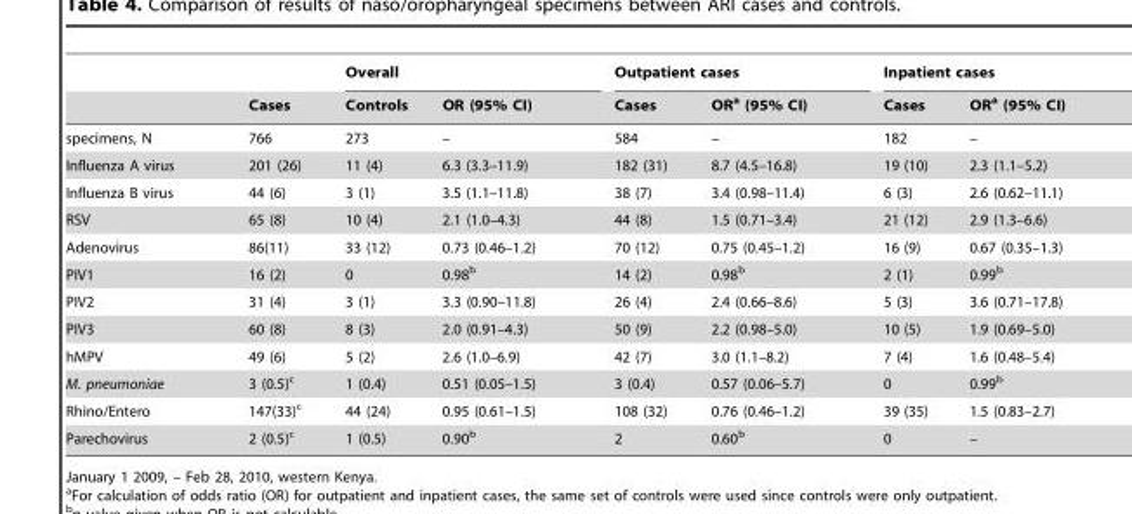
<table><thead><tr><td rowspan="2"></td><td rowspan="2">Cases</td><td colspan="2">Overall</td><td colspan="2">Outpatient cases</td><td colspan="2">Inpatient cases</td></tr><tr><td>Controls</td><td>OR (95% CI)</td><td>Cases</td><td>OR<sup>a</sup> (95% CI)</td><td>Cases</td><td>OR<sup>a</sup> (95% CI)</td></tr></thead><tbody><tr><td>specimens, N</td><td>766</td><td>273</td><td>–</td><td>584</td><td>–</td><td>182</td><td>–</td></tr><tr><td>Influenza A virus</td><td>201 (26)</td><td>11 (4)</td><td>6.3 (3.3–11.9)</td><td>182 (31)</td><td>8.7 (4.5–16.8)</td><td>19 (10)</td><td>2.3 (1.1–5.2)</td></tr><tr><td>Influenza B virus</td><td>44 (6)</td><td>3 (1)</td><td>3.5 (1.1–11.8)</td><td>38 (7)</td><td>3.4 (0.98–11.4)</td><td>6 (3)</td><td>2.6 (0.62–11.1)</td></tr><tr><td>RSV</td><td>65 (8)</td><td>10 (4)</td><td>2.1 (1.0–4.3)</td><td>44 (8)</td><td>1.5 (0.71–3.4)</td><td>21 (12)</td><td>2.9 (1.3–6.6)</td></tr><tr><td>Adenovirus</td><td>86(11)</td><td>33 (12)</td><td>0.73 (0.46–1.2)</td><td>70 (12)</td><td>0.75 (0.45–1.2)</td><td>16 (9)</td><td>0.67 (0.35–1.3)</td></tr><tr><td>PIV1</td><td>16 (2)</td><td>0</td><td>0.98<sup>b</sup></td><td>14 (2)</td><td>0.98<sup>b</sup></td><td>2 (1)</td><td>0.99<sup>b</sup></td></tr><tr><td>PIV2</td><td>31 (4)</td><td>3 (1)</td><td>3.3 (0.90–11.8)</td><td>26 (4)</td><td>2.4 (0.66–8.6)</td><td>5 (3)</td><td>3.6 (0.71–17.8)</td></tr><tr><td>PIV3</td><td>60 (8)</td><td>8 (3)</td><td>2.0 (0.91–4.3)</td><td>50 (9)</td><td>2.2 (0.98–5.0)</td><td>10 (5)</td><td>1.9 (0.69–5.0)</td></tr><tr><td>hMPV</td><td>49 (6)</td><td>5 (2)</td><td>2.6 (1.0–6.9)</td><td>42 (7)</td><td>3.0 (1.1–8.2)</td><td>7 (4)</td><td>1.6 (0.48–5.4)</td></tr><tr><td>M. pneumoniae</td><td>3 (0.5)<sup>c</sup></td><td>1 (0.4)</td><td>0.51 (0.05–1.5)</td><td>3 (0.4)</td><td>0.57 (0.06–5.7)</td><td>0</td><td>0.99<sup>b</sup></td></tr><tr><td>Rhino/Entero</td><td>147(33)<sup>c</sup></td><td>44 (24)</td><td>0.95 (0.61–1.5)</td><td>108 (32)</td><td>0.76 (0.46–1.2)</td><td>39 (35)</td><td>1.5 (0.83–2.7)</td></tr><tr><td>Parechovirus</td><td>2 (0.5)<sup>c</sup></td><td>1 (0.5)</td><td>0.90<sup>b</sup></td><td>2</td><td>0.60<sup>b</sup></td><td>0</td><td>–</td></tr></tbody></table>